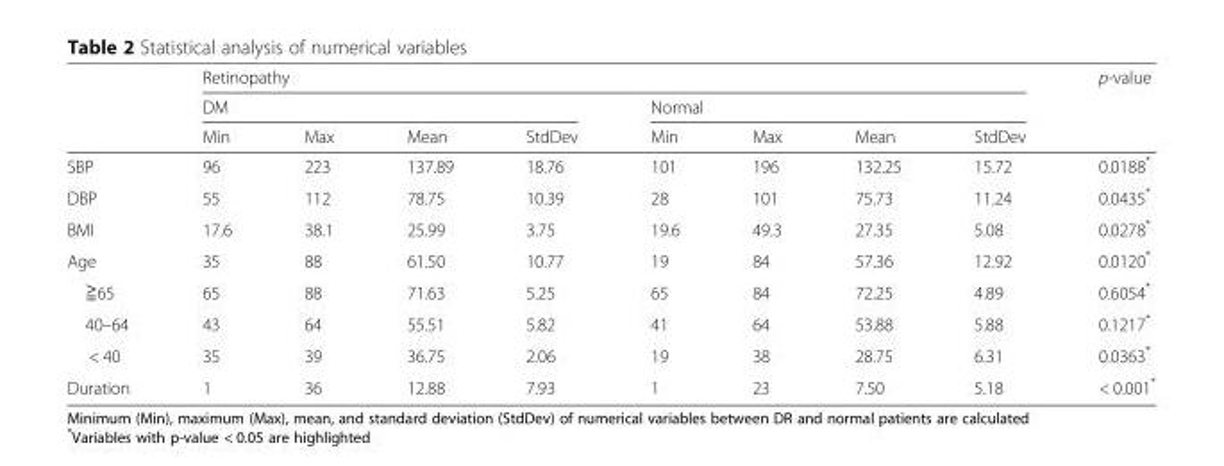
<table><thead><tr><td rowspan="3"></td><td colspan="8">Retinopathy</td><td rowspan="3">p-value</td></tr><tr><td colspan="4">DM</td><td colspan="4">Normal</td></tr><tr><td>Min</td><td>Max</td><td>Mean</td><td>StdDev</td><td>Min</td><td>Max</td><td>Mean</td><td>StdDev</td></tr></thead><tbody><tr><td>SBP</td><td>96</td><td>223</td><td>137.89</td><td>18.76</td><td>101</td><td>196</td><td>132.25</td><td>15.72</td><td>0.0188*</td></tr><tr><td>DBP</td><td>55</td><td>112</td><td>78.75</td><td>10.39</td><td>28</td><td>101</td><td>75.73</td><td>11.24</td><td>0.0435*</td></tr><tr><td>BMI</td><td>17.6</td><td>38.1</td><td>25.99</td><td>3.75</td><td>19.6</td><td>49.3</td><td>27.35</td><td>5.08</td><td>0.0278*</td></tr><tr><td>Age</td><td>35</td><td>88</td><td>61.50</td><td>10.77</td><td>19</td><td>84</td><td>57.36</td><td>12.92</td><td>0.0120*</td></tr><tr><td>≧65</td><td>65</td><td>88</td><td>71.63</td><td>5.25</td><td>65</td><td>84</td><td>72.25</td><td>4.89</td><td>0.6054*</td></tr><tr><td>40–64</td><td>43</td><td>64</td><td>55.51</td><td>5.82</td><td>41</td><td>64</td><td>53.88</td><td>5.88</td><td>0.1217*</td></tr><tr><td>&lt; 40</td><td>35</td><td>39</td><td>36.75</td><td>2.06</td><td>19</td><td>38</td><td>28.75</td><td>6.31</td><td>0.0363*</td></tr><tr><td>Duration</td><td>1</td><td>36</td><td>12.88</td><td>7.93</td><td>1</td><td>23</td><td>7.50</td><td>5.18</td><td>&lt; 0.001*</td></tr></tbody></table>